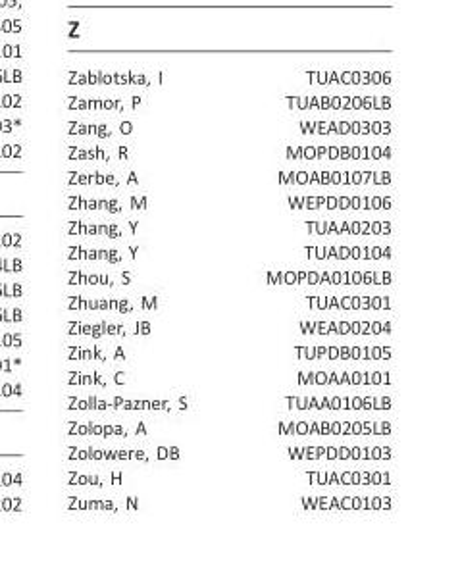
<table><tbody><tr><td>Zablotska, I</td><td>TUAC0306</td></tr><tr><td>Zamor, P</td><td>TUAB0206LB</td></tr><tr><td>Zang, O</td><td>WEAD0303</td></tr><tr><td>Zash, R</td><td>MOPDB0104</td></tr><tr><td>Zerbe, A</td><td>MOAB0107LB</td></tr><tr><td>Zhang, M</td><td>WEPDD0106</td></tr><tr><td>Zhang, Y</td><td>TUAA0203</td></tr><tr><td>Zhang, Y</td><td>TUAD0104</td></tr><tr><td>Zhou, S</td><td>MOPDA0106LB</td></tr><tr><td>Zhuang, M</td><td>TUAC0301</td></tr><tr><td>Ziegler, JB</td><td>WEAD0204</td></tr><tr><td>Zink, A</td><td>TUPDB0105</td></tr><tr><td>Zink, C</td><td>MOAA0101</td></tr><tr><td>Zolla-Pazner, S</td><td>TUAA0106LB</td></tr><tr><td>Zolopa, A</td><td>MOAB0205LB</td></tr><tr><td>Zolowere, DB</td><td>WEPDD0103</td></tr><tr><td>Zou, H</td><td>TUAC0301</td></tr><tr><td>Zuma, N</td><td>WEAC0103</td></tr></tbody></table>